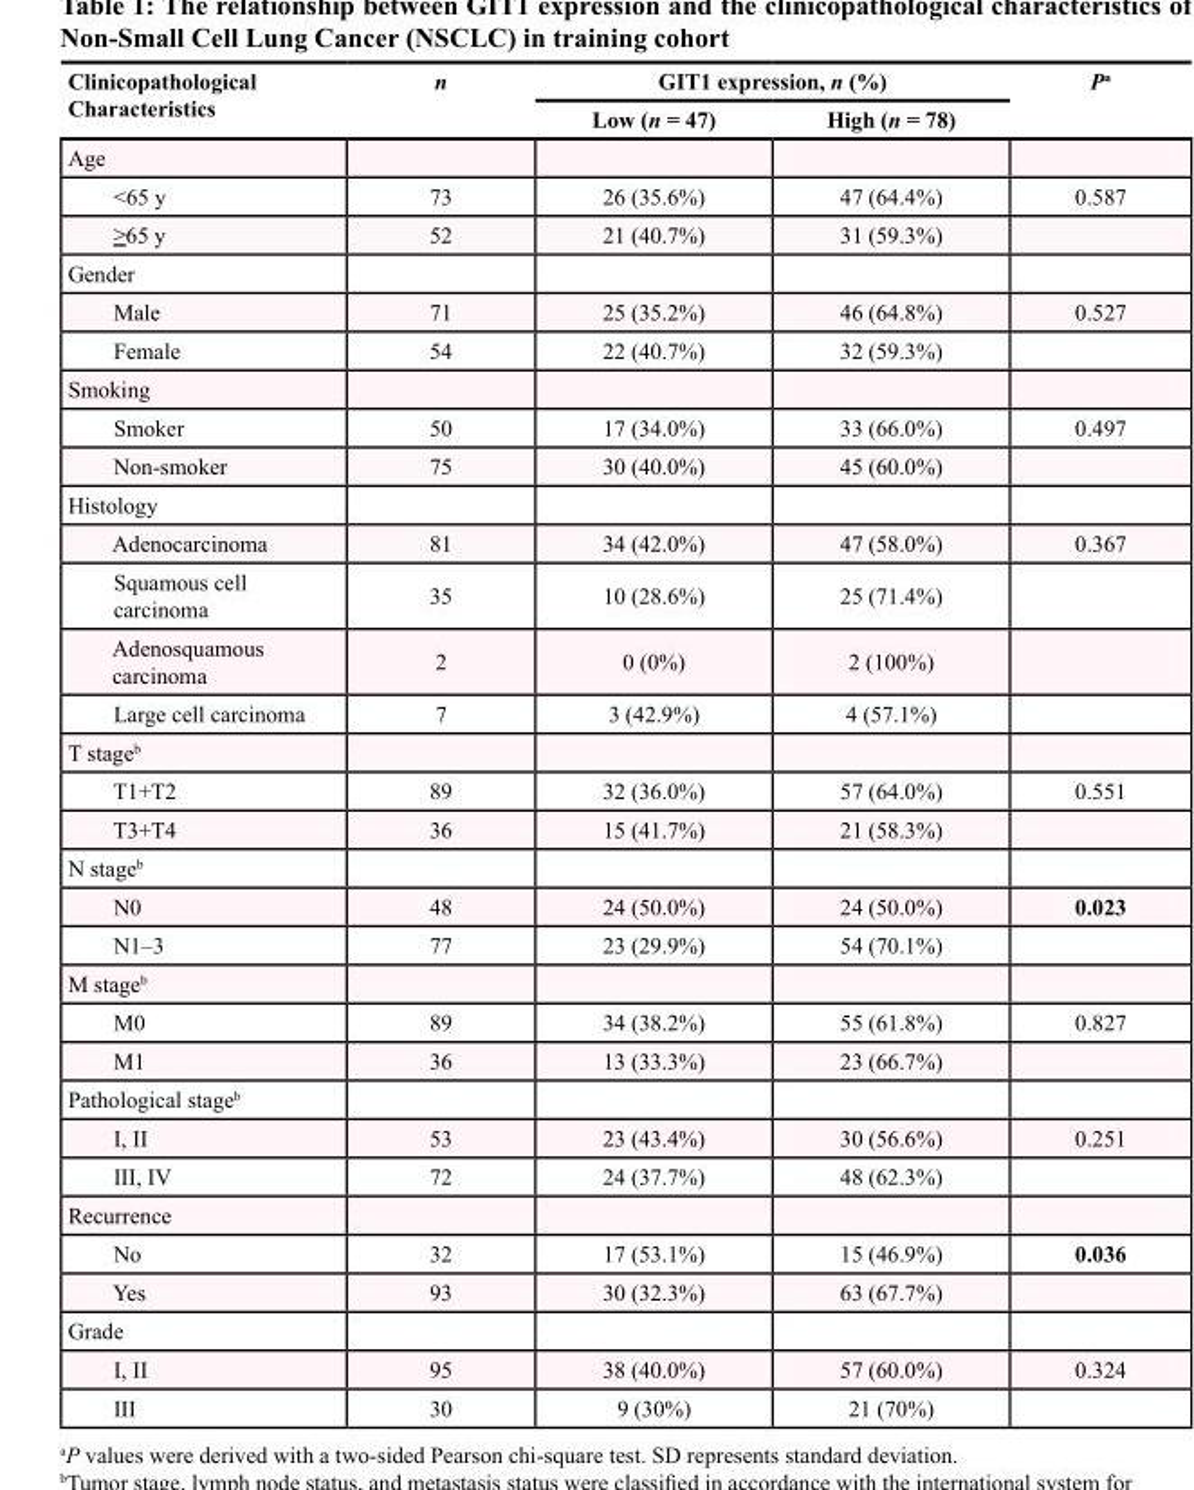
<table><thead><tr><td rowspan="2">Clinicopathological Characteristics</td><td rowspan="2">n</td><td colspan="2">GIT1 expression, n (%)</td><td rowspan="2">P<sup>a</sup></td></tr><tr><td>Low (n = 47)</td><td>High (n = 78)</td></tr></thead><tbody><tr><td colspan="5">Age</td></tr><tr><td>&lt;65 y</td><td>73</td><td>26 (35.6%)</td><td>47 (64.4%)</td><td>0.587</td></tr><tr><td>≥65 y</td><td>52</td><td>21 (40.7%)</td><td>31 (59.3%)</td><td></td></tr><tr><td colspan="5">Gender</td></tr><tr><td>Male</td><td>71</td><td>25 (35.2%)</td><td>46 (64.8%)</td><td>0.527</td></tr><tr><td>Female</td><td>54</td><td>22 (40.7%)</td><td>32 (59.3%)</td><td></td></tr><tr><td colspan="5">Smoking</td></tr><tr><td>Smoker</td><td>50</td><td>17 (34.0%)</td><td>33 (66.0%)</td><td>0.497</td></tr><tr><td>Non-smoker</td><td>75</td><td>30 (40.0%)</td><td>45 (60.0%)</td><td></td></tr><tr><td colspan="5">Histology</td></tr><tr><td>Adenocarcinoma</td><td>81</td><td>34 (42.0%)</td><td>47 (58.0%)</td><td>0.367</td></tr><tr><td>Squamous cell carcinoma</td><td>35</td><td>10 (28.6%)</td><td>25 (71.4%)</td><td></td></tr><tr><td>Adenosquamous carcinoma</td><td>2</td><td>0 (0%)</td><td>2 (100%)</td><td></td></tr><tr><td>Large cell carcinoma</td><td>7</td><td>3 (42.9%)</td><td>4 (57.1%)</td><td></td></tr><tr><td colspan="5">T stage<sup>b</sup></td></tr><tr><td>T1+T2</td><td>89</td><td>32 (36.0%)</td><td>57 (64.0%)</td><td>0.551</td></tr><tr><td>T3+T4</td><td>36</td><td>15 (41.7%)</td><td>21 (58.3%)</td><td></td></tr><tr><td colspan="5">N stage<sup>b</sup></td></tr><tr><td>N0</td><td>48</td><td>24 (50.0%)</td><td>24 (50.0%)</td><td>0.023</td></tr><tr><td>N1–3</td><td>77</td><td>23 (29.9%)</td><td>54 (70.1%)</td><td></td></tr><tr><td colspan="5">M stage<sup>b</sup></td></tr><tr><td>M0</td><td>89</td><td>34 (38.2%)</td><td>55 (61.8%)</td><td>0.827</td></tr><tr><td>M1</td><td>36</td><td>13 (33.3%)</td><td>23 (66.7%)</td><td></td></tr><tr><td colspan="5">Pathological stage<sup>b</sup></td></tr><tr><td>I, II</td><td>53</td><td>23 (43.4%)</td><td>30 (56.6%)</td><td>0.251</td></tr><tr><td>III, IV</td><td>72</td><td>24 (37.7%)</td><td>48 (62.3%)</td><td></td></tr><tr><td colspan="5">Recurrence</td></tr><tr><td>No</td><td>32</td><td>17 (53.1%)</td><td>15 (46.9%)</td><td>0.036</td></tr><tr><td>Yes</td><td>93</td><td>30 (32.3%)</td><td>63 (67.7%)</td><td></td></tr><tr><td colspan="5">Grade</td></tr><tr><td>I, II</td><td>95</td><td>38 (40.0%)</td><td>57 (60.0%)</td><td>0.324</td></tr><tr><td>III</td><td>30</td><td>9 (30%)</td><td>21 (70%)</td><td></td></tr></tbody></table>